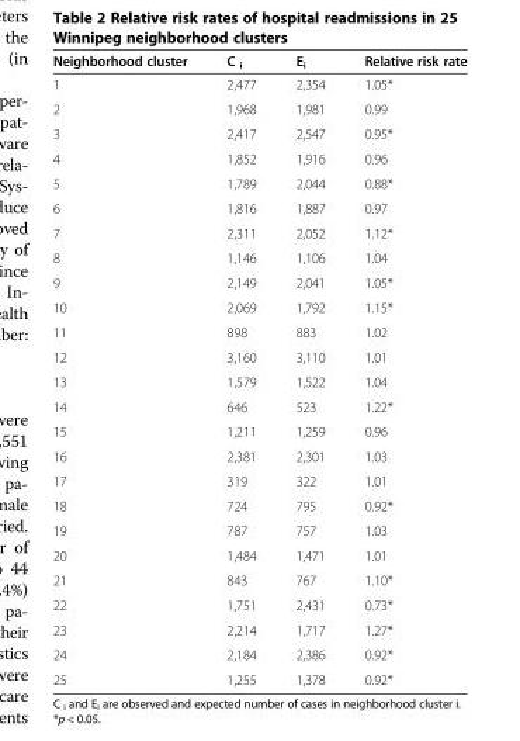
<table><thead><tr><td>Neighborhood cluster</td><td>C <sub>i</sub></td><td>E<sub>i</sub></td><td>Relative risk rate</td></tr></thead><tbody><tr><td>1</td><td>2,477</td><td>2,354</td><td>1.05*</td></tr><tr><td>2</td><td>1,968</td><td>1,981</td><td>0.99</td></tr><tr><td>3</td><td>2,417</td><td>2,547</td><td>0.95*</td></tr><tr><td>4</td><td>1,852</td><td>1,916</td><td>0.96</td></tr><tr><td>5</td><td>1,789</td><td>2,044</td><td>0.88*</td></tr><tr><td>6</td><td>1,816</td><td>1,887</td><td>0.97</td></tr><tr><td>7</td><td>2,311</td><td>2,052</td><td>1.12*</td></tr><tr><td>8</td><td>1,146</td><td>1,106</td><td>1.04</td></tr><tr><td>9</td><td>2,149</td><td>2,041</td><td>1.05*</td></tr><tr><td>10</td><td>2,069</td><td>1,792</td><td>1.15*</td></tr><tr><td>11</td><td>898</td><td>883</td><td>1.02</td></tr><tr><td>12</td><td>3,160</td><td>3,110</td><td>1.01</td></tr><tr><td>13</td><td>1,579</td><td>1,522</td><td>1.04</td></tr><tr><td>14</td><td>646</td><td>523</td><td>1.22*</td></tr><tr><td>15</td><td>1,211</td><td>1,259</td><td>0.96</td></tr><tr><td>16</td><td>2,381</td><td>2,301</td><td>1.03</td></tr><tr><td>17</td><td>319</td><td>322</td><td>1.01</td></tr><tr><td>18</td><td>724</td><td>795</td><td>0.92*</td></tr><tr><td>19</td><td>787</td><td>757</td><td>1.03</td></tr><tr><td>20</td><td>1,484</td><td>1,471</td><td>1.01</td></tr><tr><td>21</td><td>843</td><td>767</td><td>1.10*</td></tr><tr><td>22</td><td>1,751</td><td>2,431</td><td>0.73*</td></tr><tr><td>23</td><td>2,214</td><td>1,717</td><td>1.27*</td></tr><tr><td>24</td><td>2,184</td><td>2,386</td><td>0.92*</td></tr><tr><td>25</td><td>1,255</td><td>1,378</td><td>0.92*</td></tr></tbody></table>